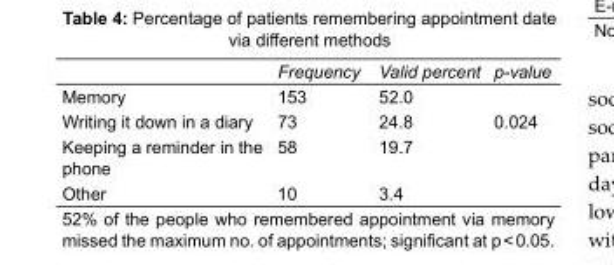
<table><thead><tr><td></td><td>Frequency</td><td>Valid percent</td><td>p-value</td></tr></thead><tbody><tr><td>Memory</td><td>153</td><td>52.0</td><td></td></tr><tr><td>Writing it down in a diary</td><td>73</td><td>24.8</td><td>0.024</td></tr><tr><td>Keeping a reminder in the phone</td><td>58</td><td>19.7</td><td></td></tr><tr><td>Other</td><td>10</td><td>3.4</td><td></td></tr></tbody></table>